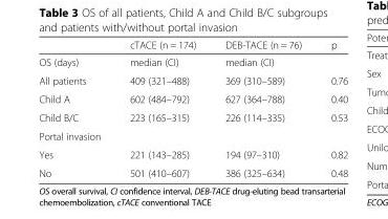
<table><thead><tr><td></td><td>cTACE (n = 174)</td><td>DEB-TACE (n = 76)</td><td>p</td></tr></thead><tbody><tr><td>OS (days)</td><td>median (CI)</td><td>median (CI)</td><td></td></tr><tr><td>All patients</td><td>409 (321–488)</td><td>369 (310–589)</td><td>0.76</td></tr><tr><td>Child A</td><td>602 (484–792)</td><td>627 (364–788)</td><td>0.40</td></tr><tr><td>Child B/C</td><td>223 (165–315)</td><td>226 (114–335)</td><td>0.53</td></tr><tr><td colspan="4">Portal invasion</td></tr><tr><td>Yes</td><td>221 (143–285)</td><td>194 (97–310)</td><td>0.82</td></tr><tr><td>No</td><td>501 (410–607)</td><td>386 (325–634)</td><td>0.48</td></tr></tbody></table>